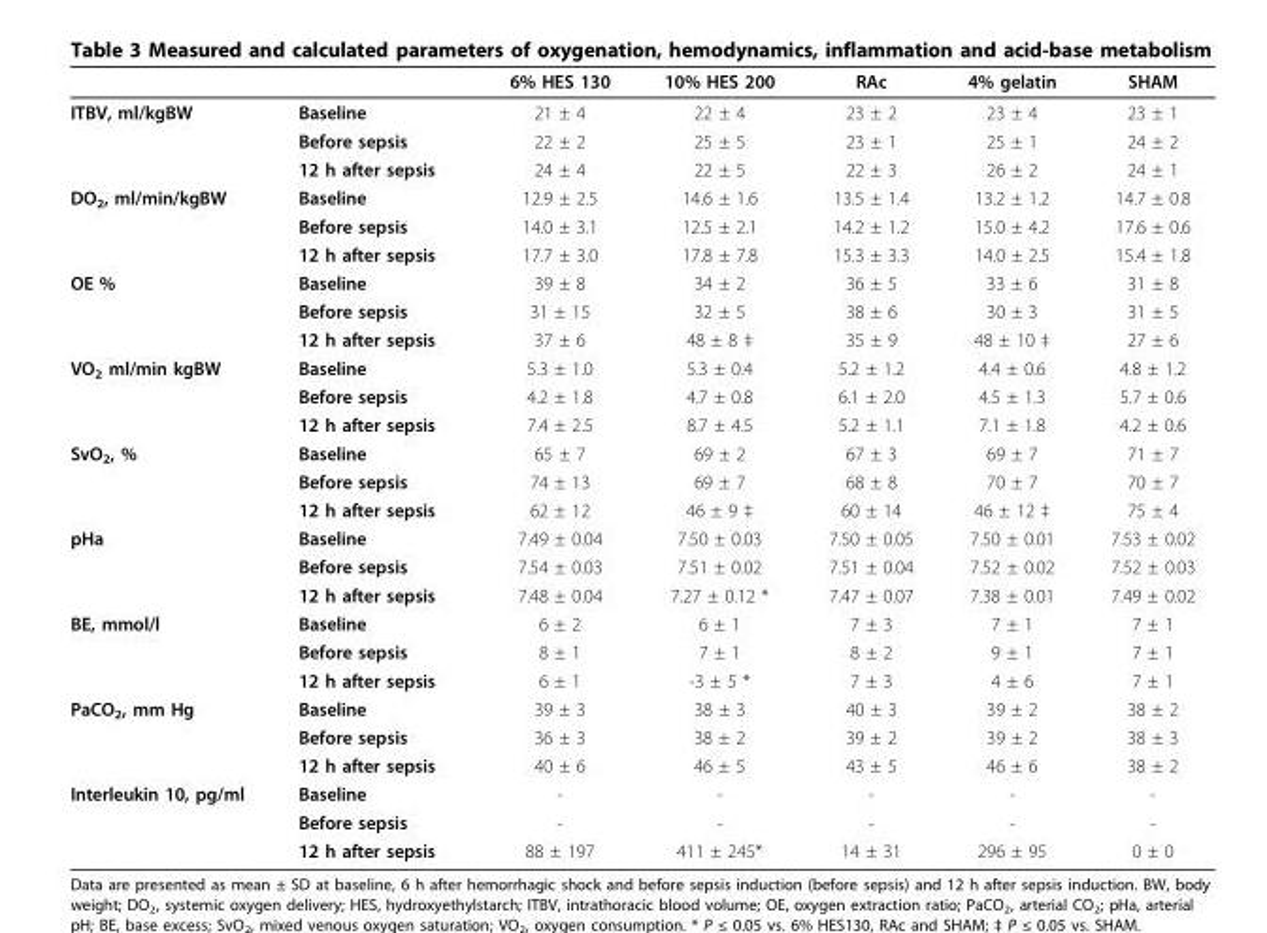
<table><thead><tr><td></td><td></td><td>6% HES 130</td><td>10% HES 200</td><td>RAc</td><td>4% gelatin</td><td>SHAM</td></tr></thead><tbody><tr><td rowspan="3">ITBV, ml/kgBW</td><td>Baseline</td><td>21 ± 4</td><td>22 ± 4</td><td>23 ± 2</td><td>23 ± 4</td><td>23 ± 1</td></tr><tr><td>Before sepsis</td><td>22 ± 2</td><td>25 ± 5</td><td>23 ± 1</td><td>25 ± 1</td><td>24 ± 2</td></tr><tr><td>12 h after sepsis</td><td>24 ± 4</td><td>22 ± 5</td><td>22 ± 3</td><td>26 ± 2</td><td>24 ± 1</td></tr><tr><td rowspan="3">DO<sub>2</sub>, ml/min/kgBW</td><td>Baseline</td><td>12.9 ± 2.5</td><td>14.6 ± 1.6</td><td>13.5 ± 1.4</td><td>13.2 ± 1.2</td><td>14.7 ± 0.8</td></tr><tr><td>Before sepsis</td><td>14.0 ± 3.1</td><td>12.5 ± 2.1</td><td>14.2 ± 1.2</td><td>15.0 ± 4.2</td><td>17.6 ± 0.6</td></tr><tr><td>12 h after sepsis</td><td>17.7 ± 3.0</td><td>17.8 ± 7.8</td><td>15.3 ± 3.3</td><td>14.0 ± 2.5</td><td>15.4 ± 1.8</td></tr><tr><td rowspan="3">OE %</td><td>Baseline</td><td>39 ± 8</td><td>34 ± 2</td><td>36 ± 5</td><td>33 ± 6</td><td>31 ± 8</td></tr><tr><td>Before sepsis</td><td>31 ± 15</td><td>32 ± 5</td><td>38 ± 6</td><td>30 ± 3</td><td>31 ± 5</td></tr><tr><td>12 h after sepsis</td><td>37 ± 6</td><td>48 ± 8 ‡</td><td>35 ± 9</td><td>48 ± 10 ‡</td><td>27 ± 6</td></tr><tr><td rowspan="3">VO<sub>2</sub> ml/min kgBW</td><td>Baseline</td><td>5.3 ± 1.0</td><td>5.3 ± 0.4</td><td>5.2 ± 1.2</td><td>4.4 ± 0.6</td><td>4.8 ± 1.2</td></tr><tr><td>Before sepsis</td><td>4.2 ± 1.8</td><td>4.7 ± 0.8</td><td>6.1 ± 2.0</td><td>4.5 ± 1.3</td><td>5.7 ± 0.6</td></tr><tr><td>12 h after sepsis</td><td>7.4 ± 2.5</td><td>8.7 ± 4.5</td><td>5.2 ± 1.1</td><td>7.1 ± 1.8</td><td>4.2 ± 0.6</td></tr><tr><td rowspan="3">SvO<sub>2</sub>, %</td><td>Baseline</td><td>65 ± 7</td><td>69 ± 2</td><td>67 ± 3</td><td>69 ± 7</td><td>71 ± 7</td></tr><tr><td>Before sepsis</td><td>74 ± 13</td><td>69 ± 7</td><td>68 ± 8</td><td>70 ± 7</td><td>70 ± 7</td></tr><tr><td>12 h after sepsis</td><td>62 ± 12</td><td>46 ± 9 ‡</td><td>60 ± 14</td><td>46 ± 12 ‡</td><td>75 ± 4</td></tr><tr><td rowspan="3">pHa</td><td>Baseline</td><td>7.49 ± 0.04</td><td>7.50 ± 0.03</td><td>7.50 ± 0.05</td><td>7.50 ± 0.01</td><td>7.53 ± 0.02</td></tr><tr><td>Before sepsis</td><td>7.54 ± 0.03</td><td>7.51 ± 0.02</td><td>7.51 ± 0.04</td><td>7.52 ± 0.02</td><td>7.52 ± 0.03</td></tr><tr><td>12 h after sepsis</td><td>7.48 ± 0.04</td><td>7.27 ± 0.12 *</td><td>7.47 ± 0.07</td><td>7.38 ± 0.01</td><td>7.49 ± 0.02</td></tr><tr><td rowspan="3">BE, mmol/l</td><td>Baseline</td><td>6 ± 2</td><td>6 ± 1</td><td>7 ± 3</td><td>7 ± 1</td><td>7 ± 1</td></tr><tr><td>Before sepsis</td><td>8 ± 1</td><td>7 ± 1</td><td>8 ± 2</td><td>9 ± 1</td><td>7 ± 1</td></tr><tr><td>12 h after sepsis</td><td>6 ± 1</td><td>-3 ± 5 *</td><td>7 ± 3</td><td>4 ± 6</td><td>7 ± 1</td></tr><tr><td rowspan="3">PaCO<sub>2</sub>, mm Hg</td><td>Baseline</td><td>39 ± 3</td><td>38 ± 3</td><td>40 ± 3</td><td>39 ± 2</td><td>38 ± 2</td></tr><tr><td>Before sepsis</td><td>36 ± 3</td><td>38 ± 2</td><td>39 ± 2</td><td>39 ± 2</td><td>38 ± 3</td></tr><tr><td>12 h after sepsis</td><td>40 ± 6</td><td>46 ± 5</td><td>43 ± 5</td><td>46 ± 6</td><td>38 ± 2</td></tr><tr><td rowspan="3">Interleukin 10, pg/ml</td><td>Baseline</td><td>-</td><td>-</td><td>-</td><td>-</td><td>-</td></tr><tr><td>Before sepsis</td><td>-</td><td>-</td><td>-</td><td>-</td><td>-</td></tr><tr><td>12 h after sepsis</td><td>88 ± 197</td><td>411 ± 245*</td><td>14 ± 31</td><td>296 ± 95</td><td>0 ± 0</td></tr></tbody></table>